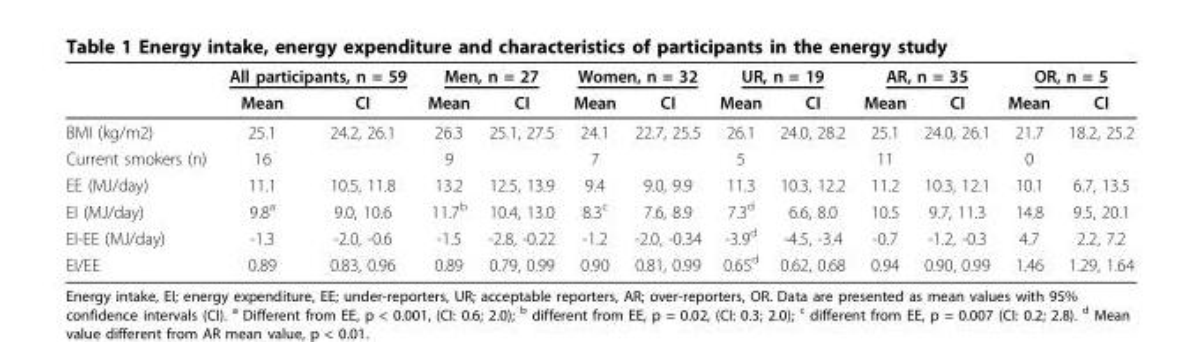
<table><thead><tr><td rowspan="2"></td><td colspan="2">All participants, n = 59</td><td colspan="2">Men, n = 27</td><td colspan="2">Women, n = 32</td><td colspan="2">UR, n = 19</td><td colspan="2">AR, n = 35</td><td colspan="2">OR, n = 5</td></tr><tr><td>Mean</td><td>CI</td><td>Mean</td><td>CI</td><td>Mean</td><td>CI</td><td>Mean</td><td>CI</td><td>Mean</td><td>CI</td><td>Mean</td><td>CI</td></tr></thead><tbody><tr><td>BMI (kg/m2)</td><td>25.1</td><td>24.2, 26.1</td><td>26.3</td><td>25.1, 27.5</td><td>24.1</td><td>22.7, 25.5</td><td>26.1</td><td>24.0, 28.2</td><td>25.1</td><td>24.0, 26.1</td><td>21.7</td><td>18.2, 25.2</td></tr><tr><td>Current smokers (n)</td><td>16</td><td></td><td>9</td><td></td><td>7</td><td></td><td>5</td><td></td><td>11</td><td></td><td>0</td><td></td></tr><tr><td>EE (MJ/day)</td><td>11.1</td><td>10.5, 11.8</td><td>13.2</td><td>12.5, 13.9</td><td>9.4</td><td>9.0, 9.9</td><td>11.3</td><td>10.3, 12.2</td><td>11.2</td><td>10.3, 12.1</td><td>10.1</td><td>6.7, 13.5</td></tr><tr><td>EI (MJ/day)</td><td>9.8<sup>a</sup></td><td>9.0, 10.6</td><td>11.7<sup>b</sup></td><td>10.4, 13.0</td><td>8.3<sup>c</sup></td><td>7.6, 8.9</td><td>7.3<sup>d</sup></td><td>6.6, 8.0</td><td>10.5</td><td>9.7, 11.3</td><td>14.8</td><td>9.5, 20.1</td></tr><tr><td>EI-EE (MJ/day)</td><td>-1.3</td><td>-2.0, -0.6</td><td>-1.5</td><td>-2.8, -0.22</td><td>-1.2</td><td>-2.0, -0.34</td><td>-3.9<sup>d</sup></td><td>-4.5, -3.4</td><td>-0.7</td><td>-1.2, -0.3</td><td>4.7</td><td>2.2, 7.2</td></tr><tr><td>EI/EE</td><td>0.89</td><td>0.83, 0.96</td><td>0.89</td><td>0.79, 0.99</td><td>0.90</td><td>0.81, 0.99</td><td>0.65<sup>d</sup></td><td>0.62, 0.68</td><td>0.94</td><td>0.90, 0.99</td><td>1.46</td><td>1.29, 1.64</td></tr></tbody></table>